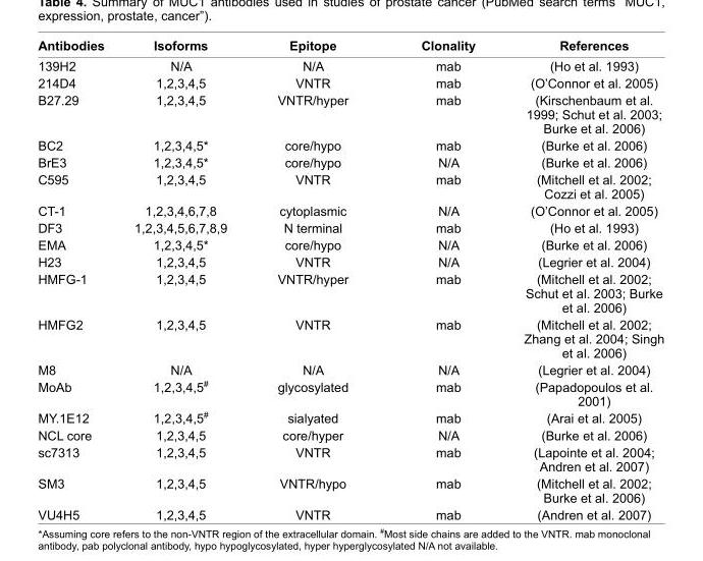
<table><thead><tr><td>Antibodies</td><td>Isoforms</td><td>Epitope</td><td>Clonality</td><td>References</td></tr></thead><tbody><tr><td>139H2</td><td>N/A</td><td>N/A</td><td>mab</td><td>(Ho et al. 1993)</td></tr><tr><td>214D4</td><td>1,2,3,4,5</td><td>VNTR</td><td>mab</td><td>(O’Connor et al. 2005)</td></tr><tr><td>B27.29</td><td>1,2,3,4,5</td><td>VNTR/hyper</td><td>mab</td><td>(Kirschenbaum et al. 1999; Schut et al. 2003; Burke et al. 2006)</td></tr><tr><td>BC2</td><td>1,2,3,4,5*</td><td>core/hypo</td><td>mab</td><td>(Burke et al. 2006)</td></tr><tr><td>BrE3</td><td>1,2,3,4,5*</td><td>core/hypo</td><td>N/A</td><td>(Burke et al. 2006)</td></tr><tr><td>C595</td><td>1,2,3,4,5</td><td>VNTR</td><td>mab</td><td>(Mitchell et al. 2002; Cozzi et al. 2005)</td></tr><tr><td>CT-1</td><td>1,2,3,4,6,7,8</td><td>cytoplasmic</td><td>N/A</td><td>(O’Connor et al. 2005)</td></tr><tr><td>DF3</td><td>1,2,3,4,5,6,7,8,9</td><td>N terminal</td><td>mab</td><td>(Ho et al. 1993)</td></tr><tr><td>EMA</td><td>1,2,3,4,5*</td><td>core/hypo</td><td>N/A</td><td>(Burke et al. 2006)</td></tr><tr><td>H23</td><td>1,2,3,4,5</td><td>VNTR</td><td>N/A</td><td>(Legrier et al. 2004)</td></tr><tr><td>HMFG-1</td><td>1,2,3,4,5</td><td>VNTR/hyper</td><td>mab</td><td>(Mitchell et al. 2002; Schut et al. 2003; Burke et al. 2006)</td></tr><tr><td>HMFG2</td><td>1,2,3,4,5</td><td>VNTR</td><td>mab</td><td>(Mitchell et al. 2002; Zhang et al. 2004; Singh et al. 2006)</td></tr><tr><td>M8</td><td>N/A</td><td>N/A</td><td>N/A</td><td>(Legrier et al. 2004)</td></tr><tr><td>MoAb</td><td>1,2,3,4,5#</td><td>glycosylated</td><td>mab</td><td>(Papadopoulos et al. 2001)</td></tr><tr><td>MY.1E12</td><td>1,2,3,4,5#</td><td>sialyated</td><td>mab</td><td>(Arai et al. 2005)</td></tr><tr><td>NCL core</td><td>1,2,3,4,5</td><td>core/hyper</td><td>N/A</td><td>(Burke et al. 2006)</td></tr><tr><td>sc7313</td><td>1,2,3,4,5</td><td>VNTR</td><td>mab</td><td>(Lapointe et al. 2004; Andren et al. 2007)</td></tr><tr><td>SM3</td><td>1,2,3,4,5</td><td>VNTR/hypo</td><td>mab</td><td>(Mitchell et al. 2002; Burke et al. 2006)</td></tr><tr><td>VU4H5</td><td>1,2,3,4,5</td><td>VNTR</td><td>mab</td><td>(Andren et al. 2007)</td></tr></tbody></table>